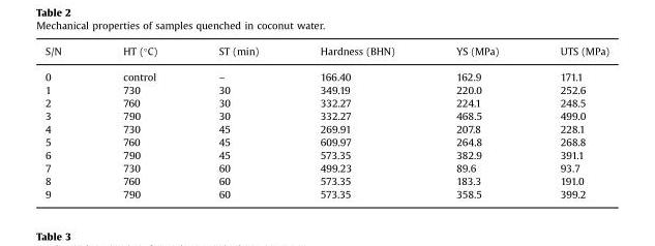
<table><thead><tr><td>S/N</td><td>HT (°C)</td><td>ST (min)</td><td>Hardness (BHN)</td><td>YS (MPa)</td><td>UTS (MPa)</td></tr></thead><tbody><tr><td>0</td><td>control</td><td>–</td><td>166.40</td><td>162.9</td><td>171.1</td></tr><tr><td>1</td><td>730</td><td>30</td><td>349.19</td><td>220.0</td><td>252.6</td></tr><tr><td>2</td><td>760</td><td>30</td><td>332.27</td><td>224.1</td><td>248.5</td></tr><tr><td>3</td><td>790</td><td>30</td><td>332.27</td><td>468.5</td><td>499.0</td></tr><tr><td>4</td><td>730</td><td>45</td><td>269.91</td><td>207.8</td><td>228.1</td></tr><tr><td>5</td><td>760</td><td>45</td><td>609.97</td><td>264.8</td><td>268.8</td></tr><tr><td>6</td><td>790</td><td>45</td><td>573.35</td><td>382.9</td><td>391.1</td></tr><tr><td>7</td><td>730</td><td>60</td><td>499.23</td><td>89.6</td><td>93.7</td></tr><tr><td>8</td><td>760</td><td>60</td><td>573.35</td><td>183.3</td><td>191.0</td></tr><tr><td>9</td><td>790</td><td>60</td><td>573.35</td><td>358.5</td><td>399.2</td></tr></tbody></table>